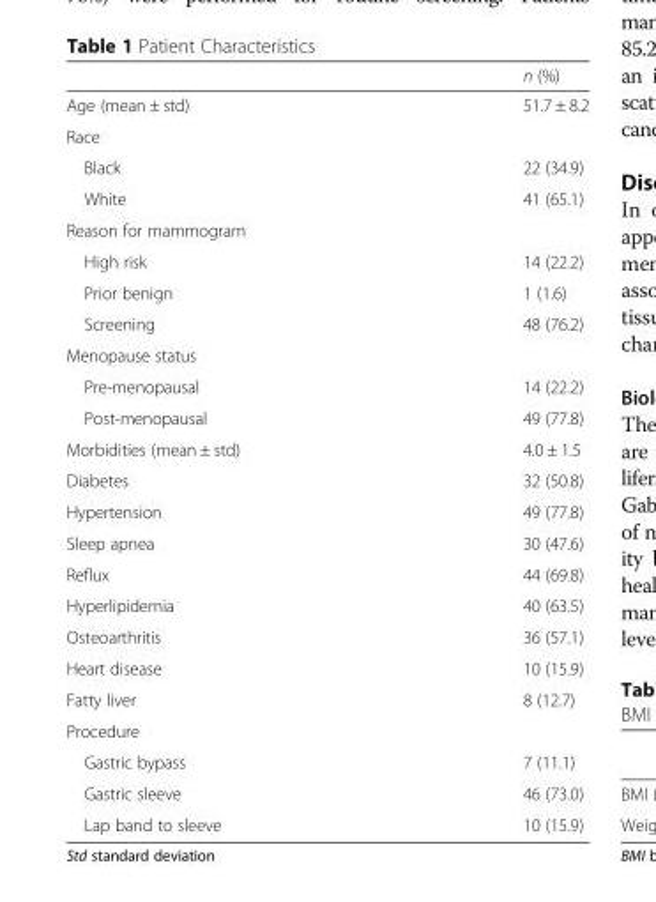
<table><thead><tr><td></td><td>n (%)</td></tr></thead><tbody><tr><td>Age (mean ± std)</td><td>51.7 ± 8.2</td></tr><tr><td colspan="2">Race</td></tr><tr><td>Black</td><td>22 (34.9)</td></tr><tr><td>White</td><td>41 (65.1)</td></tr><tr><td colspan="2">Reason for mammogram</td></tr><tr><td>High risk</td><td>14 (22.2)</td></tr><tr><td>Prior benign</td><td>1 (1.6)</td></tr><tr><td>Screening</td><td>48 (76.2)</td></tr><tr><td colspan="2">Menopause status</td></tr><tr><td>Pre-menopausal</td><td>14 (22.2)</td></tr><tr><td>Post-menopausal</td><td>49 (77.8)</td></tr><tr><td>Morbidities (mean ± std)</td><td>4.0 ± 1.5</td></tr><tr><td>Diabetes</td><td>32 (50.8)</td></tr><tr><td>Hypertension</td><td>49 (77.8)</td></tr><tr><td>Sleep apnea</td><td>30 (47.6)</td></tr><tr><td>Reflux</td><td>44 (69.8)</td></tr><tr><td>Hyperlipidemia</td><td>40 (63.5)</td></tr><tr><td>Osteoarthritis</td><td>36 (57.1)</td></tr><tr><td>Heart disease</td><td>10 (15.9)</td></tr><tr><td>Fatty liver</td><td>8 (12.7)</td></tr><tr><td colspan="2">Procedure</td></tr><tr><td>Gastric bypass</td><td>7 (11.1)</td></tr><tr><td>Gastric sleeve</td><td>46 (73.0)</td></tr><tr><td>Lap band to sleeve</td><td>10 (15.9)</td></tr></tbody></table>